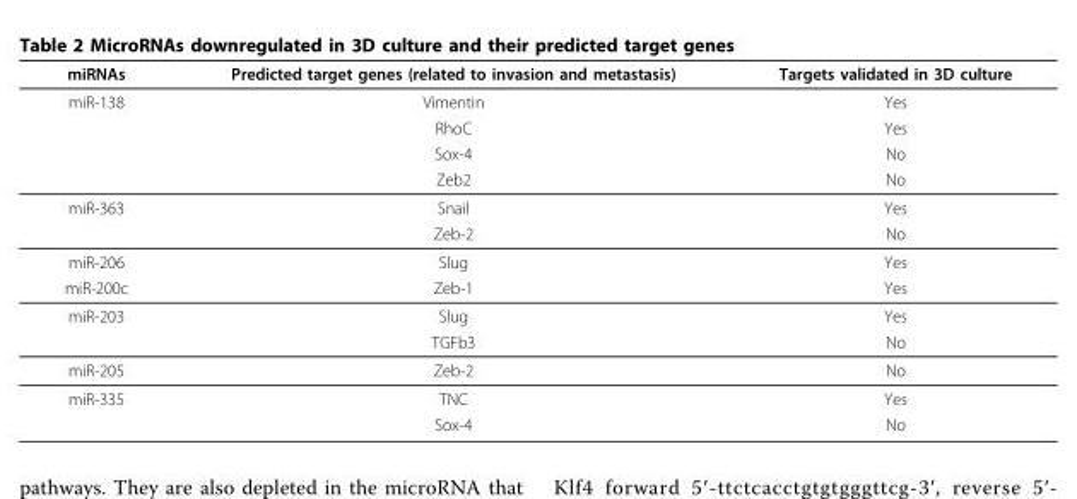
<table><thead><tr><td>miRNAs</td><td>Predicted target genes (related to invasion and metastasis)</td><td>Targets validated in 3D culture</td></tr></thead><tbody><tr><td rowspan="4">miR-138</td><td>Vimentin</td><td>Yes</td></tr><tr><td>RhoC</td><td>Yes</td></tr><tr><td>Sox-4</td><td>No</td></tr><tr><td>Zeb2</td><td>No</td></tr><tr><td rowspan="2">miR-363</td><td>Snail</td><td>Yes</td></tr><tr><td>Zeb-2</td><td>No</td></tr><tr><td>miR-206</td><td>Slug</td><td>Yes</td></tr><tr><td>miR-200c</td><td>Zeb-1</td><td>Yes</td></tr><tr><td rowspan="2">miR-203</td><td>Slug</td><td>Yes</td></tr><tr><td>TGFb3</td><td>No</td></tr><tr><td>miR-205</td><td>Zeb-2</td><td>No</td></tr><tr><td rowspan="2">miR-335</td><td>TNC</td><td>Yes</td></tr><tr><td>Sox-4</td><td>No</td></tr></tbody></table>